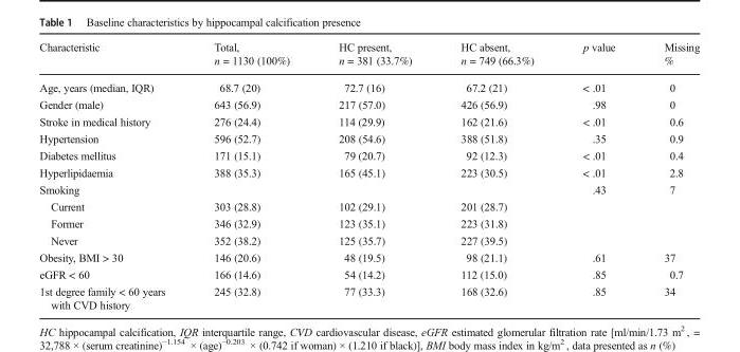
<table><thead><tr><td>Characteristic</td><td>Total, n = 1130 (100%)</td><td>HC present, n = 381 (33.7%)</td><td>HC absent, n = 749 (66.3%)</td><td>p value</td><td>Missing %</td></tr></thead><tbody><tr><td>Age, years (median, IQR)</td><td>68.7 (20)</td><td>72.7 (16)</td><td>67.2 (21)</td><td>&lt; .01</td><td>0</td></tr><tr><td>Gender (male)</td><td>643 (56.9)</td><td>217 (57.0)</td><td>426 (56.9)</td><td>.98</td><td>0</td></tr><tr><td>Stroke in medical history</td><td>276 (24.4)</td><td>114 (29.9)</td><td>162 (21.6)</td><td>&lt; .01</td><td>0.6</td></tr><tr><td>Hypertension</td><td>596 (52.7)</td><td>208 (54.6)</td><td>388 (51.8)</td><td>.35</td><td>0.9</td></tr><tr><td>Diabetes mellitus</td><td>171 (15.1)</td><td>79 (20.7)</td><td>92 (12.3)</td><td>&lt; .01</td><td>0.4</td></tr><tr><td>Hyperlipidaemia</td><td>388 (35.3)</td><td>165 (45.1)</td><td>223 (30.5)</td><td>&lt; .01</td><td>2.8</td></tr><tr><td>Smoking</td><td></td><td></td><td></td><td>.43</td><td>7</td></tr><tr><td>Current</td><td>303 (28.8)</td><td>102 (29.1)</td><td>201 (28.7)</td><td></td><td></td></tr><tr><td>Former</td><td>346 (32.9)</td><td>123 (35.1)</td><td>223 (31.8)</td><td></td><td></td></tr><tr><td>Never</td><td>352 (38.2)</td><td>125 (35.7)</td><td>227 (39.5)</td><td></td><td></td></tr><tr><td>Obesity, BMI &gt; 30</td><td>146 (20.6)</td><td>48 (19.5)</td><td>98 (21.1)</td><td>.61</td><td>37</td></tr><tr><td>eGFR &lt; 60</td><td>166 (14.6)</td><td>54 (14.2)</td><td>112 (15.0)</td><td>.85</td><td>0.7</td></tr><tr><td>1st degree family &lt; 60 years with CVD history</td><td>245 (32.8)</td><td>77 (33.3)</td><td>168 (32.6)</td><td>.85</td><td>34</td></tr></tbody></table>